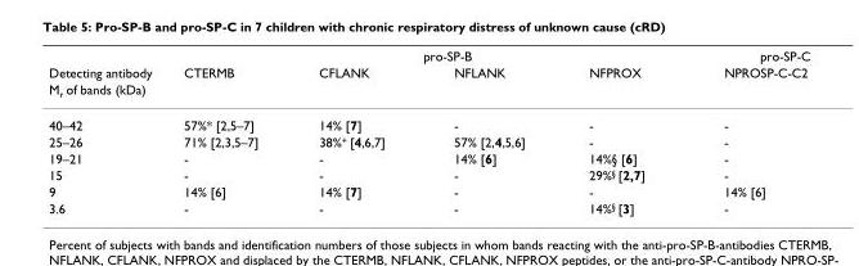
<table><thead><tr><td rowspan="3">Detecting antibody M<sub>r</sub> of bands (kDa)</td><td colspan="4">pro-SP-B</td><td rowspan="3">pro-SP-C NPROSP-C-C2</td></tr><tr><td rowspan="2">CTERMB</td><td rowspan="2">CFLANK</td><td rowspan="2">NFLANK</td><td rowspan="2">NFPROX</td></tr><tr></tr></thead><tbody><tr><td>40–42</td><td>57%* [2,5–7]</td><td>14% [7]</td><td>-</td><td>-</td><td>-</td></tr><tr><td>25–26</td><td>71% [2,3,5–7]</td><td>38%<sup>+</sup> [4,6,7]</td><td>57% [2,4,5,6]</td><td>-</td><td>-</td></tr><tr><td>19–21</td><td>-</td><td>-</td><td>14% [6]</td><td>14%§ [6]</td><td>-</td></tr><tr><td>15</td><td>-</td><td>-</td><td>-</td><td>29%<sup>§</sup> [2,7]</td><td>-</td></tr><tr><td>9</td><td>14% [6]</td><td>14% [7]</td><td>-</td><td>-</td><td>14% [6]</td></tr><tr><td>3.6</td><td>-</td><td>-</td><td>-</td><td>14%<sup>§</sup> [3]</td><td>-</td></tr></tbody></table>